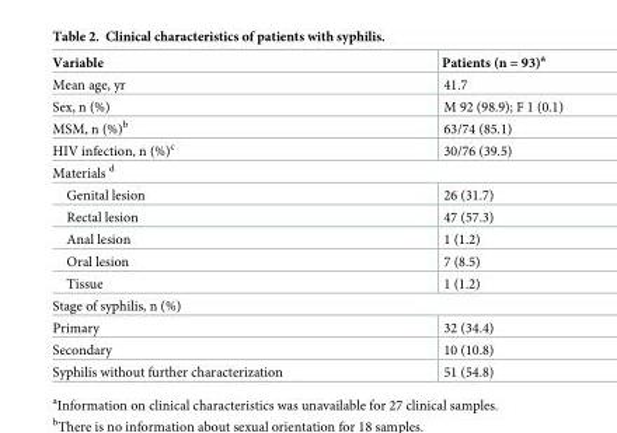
<table><thead><tr><td>Variable</td><td>Patients (n = 93)<sup>a</sup></td></tr></thead><tbody><tr><td>Mean age, yr</td><td>41.7</td></tr><tr><td>Sex, n (%)</td><td>M 92 (98.9); F 1 (0.1)</td></tr><tr><td>MSM, n (%)<sup>b</sup></td><td>63/74 (85.1)</td></tr><tr><td>HIV infection, n (%)<sup>c</sup></td><td>30/76 (39.5)</td></tr><tr><td colspan="2">Materials <sup>d</sup></td></tr><tr><td>Genital lesion</td><td>26 (31.7)</td></tr><tr><td>Rectal lesion</td><td>47 (57.3)</td></tr><tr><td>Anal lesion</td><td>1 (1.2)</td></tr><tr><td>Oral lesion</td><td>7 (8.5)</td></tr><tr><td>Tissue</td><td>1 (1.2)</td></tr><tr><td colspan="2">Stage of syphilis, n (%)</td></tr><tr><td>Primary</td><td>32 (34.4)</td></tr><tr><td>Secondary</td><td>10 (10.8)</td></tr><tr><td>Syphilis without further characterization</td><td>51 (54.8)</td></tr></tbody></table>